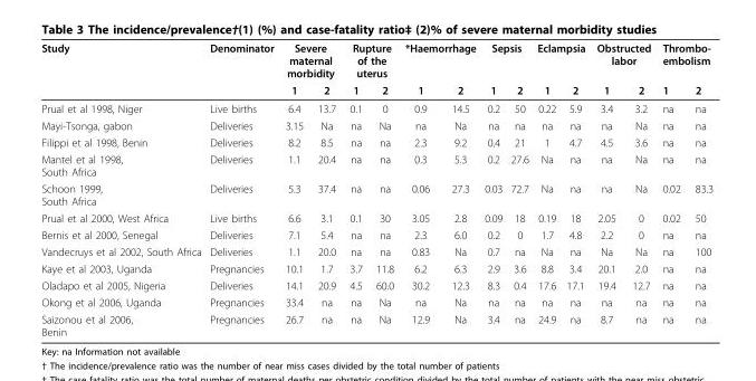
<table><thead><tr><td rowspan="2">Study</td><td rowspan="2">Denominator</td><td colspan="2">Severe maternal morbidity</td><td colspan="2">Rupture of the uterus</td><td colspan="2">*Haemorrhage</td><td colspan="2">Sepsis</td><td colspan="2">Eclampsia</td><td colspan="2">Obstructed labor</td><td colspan="2">Thrombo- embolism</td></tr><tr><td>1</td><td>2</td><td>1</td><td>2</td><td>1</td><td>2</td><td>1</td><td>2</td><td>1</td><td>2</td><td>1</td><td>2</td><td>1</td><td>2</td></tr></thead><tbody><tr><td>Prual et al 1998, Niger</td><td>Live births</td><td>6.4</td><td>13.7</td><td>0.1</td><td>0</td><td>0.9</td><td>14.5</td><td>0.2</td><td>50</td><td>0.22</td><td>5.9</td><td>3.4</td><td>3.2</td><td>na</td><td>na</td></tr><tr><td>Mayi-Tsonga, gabon</td><td>Deliveries</td><td>3.15</td><td>Na</td><td>na</td><td>Na</td><td>na</td><td>Na</td><td>na</td><td>na</td><td>na</td><td>na</td><td>na</td><td>Na</td><td>na</td><td>na</td></tr><tr><td>Filippi et al 1998, Benin</td><td>Deliveries</td><td>8.2</td><td>8.5</td><td>na</td><td>na</td><td>2.3</td><td>9.2</td><td>0.4</td><td>21</td><td>1</td><td>4.7</td><td>4.5</td><td>3.6</td><td>na</td><td>na</td></tr><tr><td>Mantel et al 1998, South Africa</td><td>Deliveries</td><td>1.1</td><td>20.4</td><td>na</td><td>na</td><td>0.3</td><td>5.3</td><td>0.2</td><td>27.6</td><td>Na</td><td>na</td><td>na</td><td>Na</td><td>na</td><td>na</td></tr><tr><td>Schoon 1999, South Africa</td><td>Deliveries</td><td>5.3</td><td>37.4</td><td>na</td><td>na</td><td>0.06</td><td>27.3</td><td>0.03</td><td>72.7</td><td>Na</td><td>na</td><td>na</td><td>Na</td><td>0.02</td><td>83.3</td></tr><tr><td>Prual et al 2000, West Africa</td><td>Live births</td><td>6.6</td><td>3.1</td><td>0.1</td><td>30</td><td>3.05</td><td>2.8</td><td>0.09</td><td>18</td><td>0.19</td><td>18</td><td>2.05</td><td>0</td><td>0.02</td><td>50</td></tr><tr><td>Bernis et al 2000, Senegal</td><td>Deliveries</td><td>7.1</td><td>5.4</td><td>na</td><td>na</td><td>2.3</td><td>6.0</td><td>0.2</td><td>0</td><td>1.7</td><td>4.8</td><td>2.2</td><td>0</td><td>na</td><td>na</td></tr><tr><td>Vandecruys et al 2002, South Africa</td><td>Deliveries</td><td>1.1</td><td>20.0</td><td>na</td><td>na</td><td>0.83</td><td>Na</td><td>0.7</td><td>na</td><td>Na</td><td>na</td><td>Na</td><td>Na</td><td>na</td><td>100</td></tr><tr><td>Kaye et al 2003, Uganda</td><td>Pregnancies</td><td>10.1</td><td>1.7</td><td>3.7</td><td>11.8</td><td>6.2</td><td>6.3</td><td>2.9</td><td>3.6</td><td>8.8</td><td>3.4</td><td>20.1</td><td>2.0</td><td>na</td><td>na</td></tr><tr><td>Oladapo et al 2005, Nigeria</td><td>Deliveries</td><td>14.1</td><td>20.9</td><td>4.5</td><td>60.0</td><td>30.2</td><td>12.3</td><td>8.3</td><td>0.4</td><td>17.6</td><td>17.1</td><td>19.4</td><td>12.7</td><td>na</td><td>na</td></tr><tr><td>Okong et al 2006, Uganda</td><td>Pregnancies</td><td>33.4</td><td>na</td><td>na</td><td>Na</td><td>na</td><td>Na</td><td>na</td><td>na</td><td>na</td><td>na</td><td>na</td><td>na</td><td>na</td><td>na</td></tr><tr><td>Saizonou et al 2006, Benin</td><td>Pregnancies</td><td>26.7</td><td>na</td><td>na</td><td>Na</td><td>12.9</td><td>Na</td><td>3.4</td><td>na</td><td>24.9</td><td>na</td><td>8.7</td><td>na</td><td>na</td><td>na</td></tr></tbody></table>